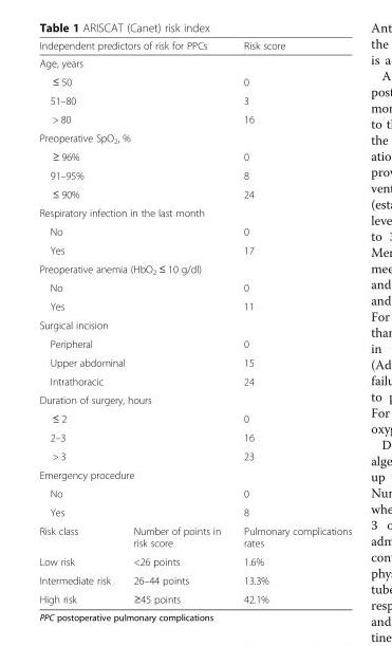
<table><thead><tr><td colspan="2">Independent predictors of risk for PPCs</td><td>Risk score</td></tr></thead><tbody><tr><td colspan="3">Age, years</td></tr><tr><td colspan="2">≤ 50</td><td>0</td></tr><tr><td colspan="2">51–80</td><td>3</td></tr><tr><td colspan="2">&gt; 80</td><td>16</td></tr><tr><td colspan="3">Preoperative SpO<sub>2</sub>, %</td></tr><tr><td colspan="2">≥ 96%</td><td>0</td></tr><tr><td colspan="2">91–95%</td><td>8</td></tr><tr><td colspan="2">≤ 90%</td><td>24</td></tr><tr><td colspan="3">Respiratory infection in the last month</td></tr><tr><td colspan="2">No</td><td>0</td></tr><tr><td colspan="2">Yes</td><td>17</td></tr><tr><td colspan="3">Preoperative anemia (HbO<sub>2</sub> ≤ 10 g/dl)</td></tr><tr><td colspan="2">No</td><td>0</td></tr><tr><td colspan="2">Yes</td><td>11</td></tr><tr><td colspan="3">Surgical incision</td></tr><tr><td colspan="2">Peripheral</td><td>0</td></tr><tr><td colspan="2">Upper abdominal</td><td>15</td></tr><tr><td colspan="2">Intrathoracic</td><td>24</td></tr><tr><td colspan="3">Duration of surgery, hours</td></tr><tr><td colspan="2">≤ 2</td><td>0</td></tr><tr><td colspan="2">2–3</td><td>16</td></tr><tr><td colspan="2">&gt; 3</td><td>23</td></tr><tr><td colspan="3">Emergency procedure</td></tr><tr><td colspan="2">No</td><td>0</td></tr><tr><td colspan="2">Yes</td><td>8</td></tr><tr><td>Risk class</td><td>Number of points in risk score</td><td>Pulmonary complications rates</td></tr><tr><td>Low risk</td><td>&lt;26 points</td><td>1.6%</td></tr><tr><td>Intermediate risk</td><td>26–44 points</td><td>13.3%</td></tr><tr><td>High risk</td><td>≥45 points</td><td>42.1%</td></tr></tbody></table>